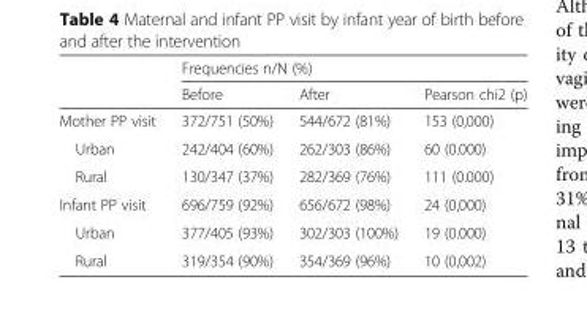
<table><thead><tr><td rowspan="2"></td><td colspan="3">Frequencies n/N (%)</td></tr><tr><td>Before</td><td>After</td><td>Pearson chi2 (p)</td></tr></thead><tbody><tr><td>Mother PP visit</td><td>372/751 (50%)</td><td>544/672 (81%)</td><td>153 (0,000)</td></tr><tr><td>Urban</td><td>242/404 (60%)</td><td>262/303 (86%)</td><td>60 (0.000)</td></tr><tr><td>Rural</td><td>130/347 (37%)</td><td>282/369 (76%)</td><td>111 (0.000)</td></tr><tr><td>Infant PP visit</td><td>696/759 (92%)</td><td>656/672 (98%)</td><td>24 (0,000)</td></tr><tr><td>Urban</td><td>377/405 (93%)</td><td>302/303 (100%)</td><td>19 (0.000)</td></tr><tr><td>Rural</td><td>319/354 (90%)</td><td>354/369 (96%)</td><td>10 (0,002)</td></tr></tbody></table>